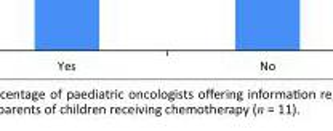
<table><tbody><tr><td>Yes</td><td>No</td></tr></tbody></table>